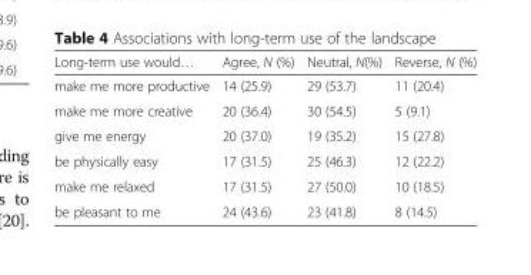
<table><thead><tr><td>Long-term use would…</td><td>Agree, N (%)</td><td>Neutral, N(%)</td><td>Reverse, N (%)</td></tr></thead><tbody><tr><td>make me more productive</td><td>14 (25.9)</td><td>29 (53.7)</td><td>11 (20.4)</td></tr><tr><td>make me more creative</td><td>20 (36.4)</td><td>30 (54.5)</td><td>5 (9.1)</td></tr><tr><td>give me energy</td><td>20 (37.0)</td><td>19 (35.2)</td><td>15 (27.8)</td></tr><tr><td>be physically easy</td><td>17 (31.5)</td><td>25 (46.3)</td><td>12 (22.2)</td></tr><tr><td>make me relaxed</td><td>17 (31.5)</td><td>27 (50.0)</td><td>10 (18.5)</td></tr><tr><td>be pleasant to me</td><td>24 (43.6)</td><td>23 (41.8)</td><td>8 (14.5)</td></tr></tbody></table>